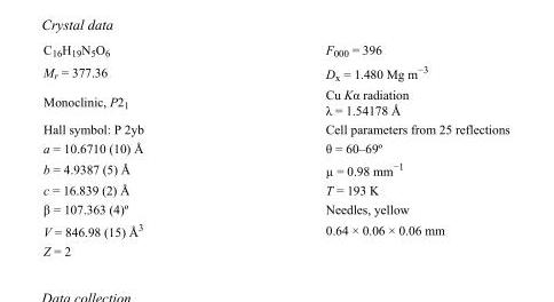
<table><tbody><tr><td>C<sub>16</sub>H<sub>19</sub>N<sub>5</sub>O<sub>6</sub></td><td>F000 = 396</td></tr><tr><td>M<sub>r</sub> = 377.36</td><td>D<sub>x</sub> = 1.480 Mg m<sup>−3</sup></td></tr><tr><td>Monoclinic, P2<sub>1</sub></td><td>Cu Kα radiation λ = 1.54178 Å</td></tr><tr><td>Hall symbol: P 2yb</td><td>Cell parameters from 25 reflections</td></tr><tr><td>a = 10.6710 (10) Å</td><td>θ = 60–69º</td></tr><tr><td>b = 4.9387 (5) Å</td><td>µ = 0.98 mm<sup>−1</sup></td></tr><tr><td>c = 16.839 (2) Å</td><td>T = 193 K</td></tr><tr><td>β = 107.363 (4)º</td><td>Needles, yellow</td></tr><tr><td>V = 846.98 (15) Å<sup>3</sup></td><td>0.64 × 0.06 × 0.06 mm</td></tr><tr><td>Z = 2</td><td></td></tr></tbody></table>